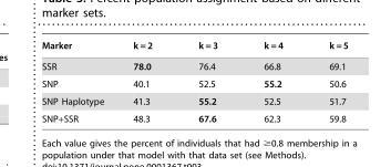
<table><thead><tr><td>Marker</td><td>k = 2</td><td>k = 3</td><td>k = 4</td><td>k = 5</td></tr></thead><tbody><tr><td>SSR</td><td>78.0</td><td>76.4</td><td>66.8</td><td>69.1</td></tr><tr><td>SNP</td><td>40.1</td><td>52.5</td><td>55.2</td><td>50.6</td></tr><tr><td>SNP Haplotype</td><td>41.3</td><td>55.2</td><td>52.5</td><td>51.7</td></tr><tr><td>SNP+SSR</td><td>48.3</td><td>67.6</td><td>62.3</td><td>59.8</td></tr></tbody></table>